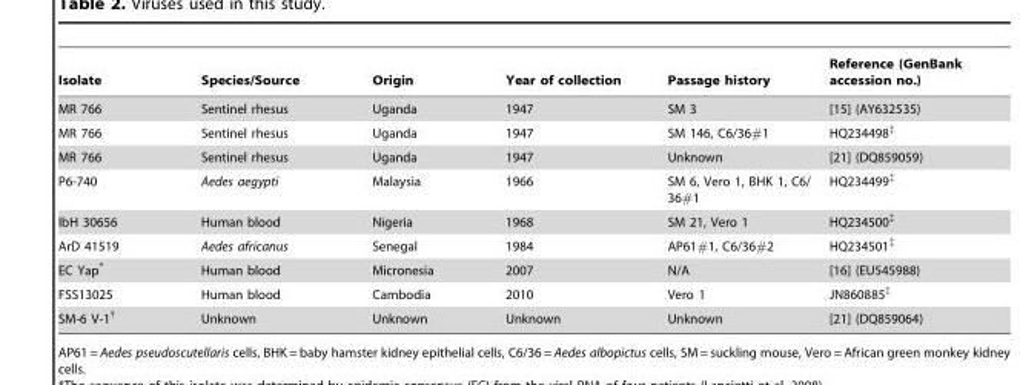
<table><thead><tr><td>Isolate</td><td>Species/Source</td><td>Origin</td><td>Year of collection</td><td>Passage history</td><td>Reference (GenBank accession no.)</td></tr></thead><tbody><tr><td>MR 766</td><td>Sentinel rhesus</td><td>Uganda</td><td>1947</td><td>SM 3</td><td>[15] (AY632535)</td></tr><tr><td>MR 766</td><td>Sentinel rhesus</td><td>Uganda</td><td>1947</td><td>SM 146, C6/36#1</td><td>HQ234498‡</td></tr><tr><td>MR 766</td><td>Sentinel rhesus</td><td>Uganda</td><td>1947</td><td>Unknown</td><td>[21] (DQ859059)</td></tr><tr><td>P6-740</td><td>Aedes aegypti</td><td>Malaysia</td><td>1966</td><td>SM 6, Vero 1, BHK 1, C6/ 36#1</td><td>HQ234499‡</td></tr><tr><td>IbH 30656</td><td>Human blood</td><td>Nigeria</td><td>1968</td><td>SM 21, Vero 1</td><td>HQ234500‡</td></tr><tr><td>ArD 41519</td><td>Aedes africanus</td><td>Senegal</td><td>1984</td><td>AP61#1, C6/36#2</td><td>HQ234501‡</td></tr><tr><td>EC Yap*</td><td>Human blood</td><td>Micronesia</td><td>2007</td><td>N/A</td><td>[16] (EU545988)</td></tr><tr><td>FSS13025</td><td>Human blood</td><td>Cambodia</td><td>2010</td><td>Vero 1</td><td>JN860885‡</td></tr><tr><td>SM-6 V-1†</td><td>Unknown</td><td>Unknown</td><td>Unknown</td><td>Unknown</td><td>[21] (DQ859064)</td></tr></tbody></table>